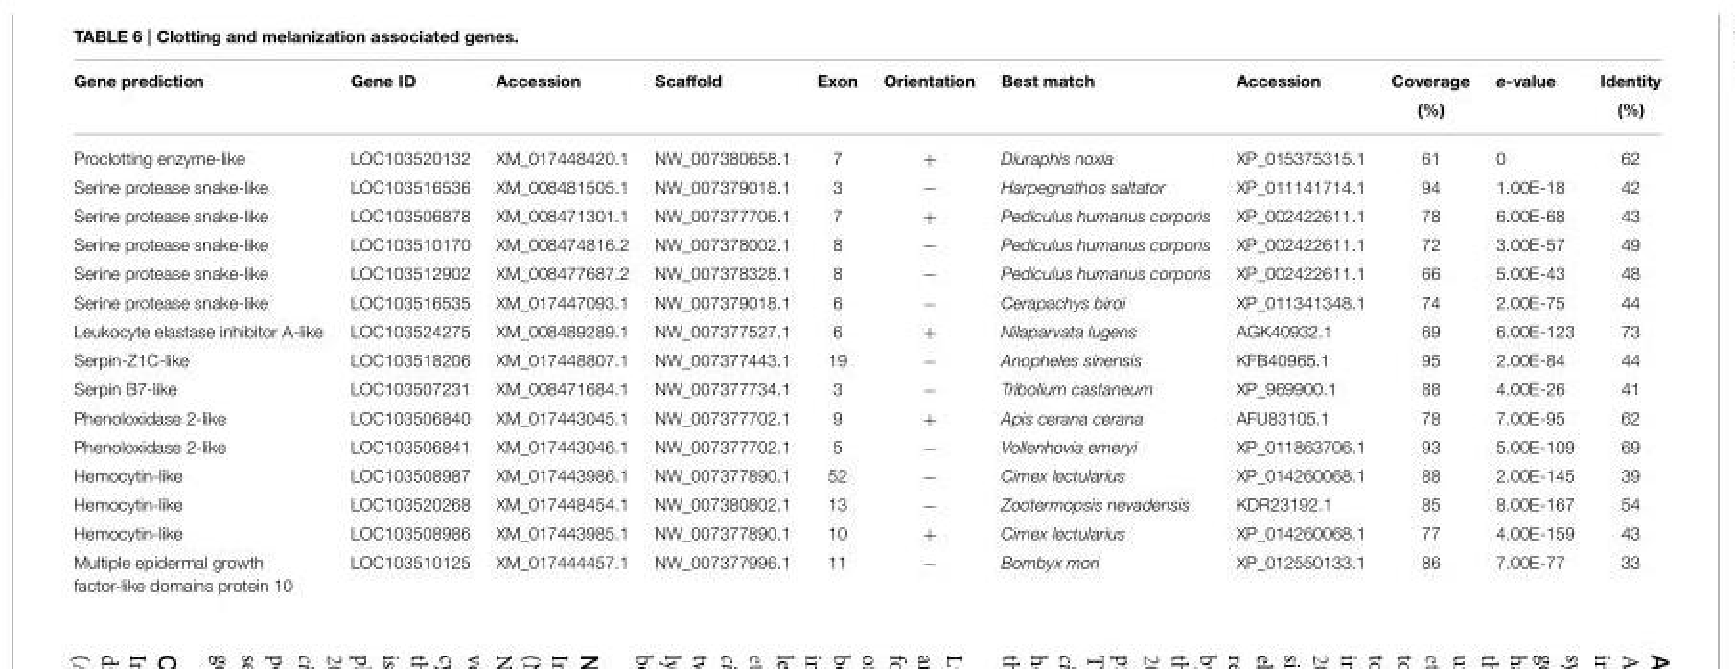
<table><thead><tr><td>Gene prediction</td><td>Gene ID</td><td>Accession</td><td>Scaffold</td><td>Exon</td><td>Orientation</td><td>Best match</td><td>Accession</td><td>Coverage (%)</td><td>e-value</td><td>Identity (%)</td></tr></thead><tbody><tr><td>Proclotting enzyme-like</td><td>LOC103520132</td><td>XM_017448420.1</td><td>NW_007380658.1</td><td>7</td><td>+</td><td>Diuraphis noxia</td><td>XP_015375315.1</td><td>61</td><td>0</td><td>62</td></tr><tr><td>Serine protease snake-like</td><td>LOC103516536</td><td>XM_008481505.1</td><td>NW_007379018.1</td><td>3</td><td>−</td><td>Harpegnathos saltator</td><td>XP_011141714.1</td><td>94</td><td>1.00E-18</td><td>42</td></tr><tr><td>Serine protease snake-like</td><td>LOC103506878</td><td>XM_008471301.1</td><td>NW_007377706.1</td><td>7</td><td>+</td><td>Pediculus humanus corporis</td><td>XP_002422611.1</td><td>78</td><td>6.00E-68</td><td>43</td></tr><tr><td>Serine protease snake-like</td><td>LOC103510170</td><td>XM_008474816.2</td><td>NW_007378002.1</td><td>8</td><td>−</td><td>Pediculus humanus corporis</td><td>XP_002422611.1</td><td>72</td><td>3.00E-57</td><td>49</td></tr><tr><td>Serine protease snake-like</td><td>LOC103512902</td><td>XM_008477687.2</td><td>NW_007378328.1</td><td>8</td><td>−</td><td>Pediculus humanus corporis</td><td>XP_002422611.1</td><td>66</td><td>5.00E-43</td><td>48</td></tr><tr><td>Serine protease snake-like</td><td>LOC103516535</td><td>XM_017447093.1</td><td>NW_007379018.1</td><td>6</td><td>−</td><td>Cerapachys biroi</td><td>XP_011341348.1</td><td>74</td><td>2.00E-75</td><td>44</td></tr><tr><td>Leukocyte elastase inhibitor A-like</td><td>LOC103524275</td><td>XM_008489289.1</td><td>NW_007377527.1</td><td>6</td><td>+</td><td>Nilaparvata lugens</td><td>AGK40932.1</td><td>69</td><td>6.00E-123</td><td>73</td></tr><tr><td>Serpin-Z1C-like</td><td>LOC103518206</td><td>XM_017448807.1</td><td>NW_007377443.1</td><td>19</td><td>−</td><td>Anopheles sinensis</td><td>KFB40965.1</td><td>95</td><td>2.00E-84</td><td>44</td></tr><tr><td>Serpin B7-like</td><td>LOC103507231</td><td>XM_008471684.1</td><td>NW_007377734.1</td><td>3</td><td>−</td><td>Tribolium castaneum</td><td>XP_969900.1</td><td>88</td><td>4.00E-26</td><td>41</td></tr><tr><td>Phenoloxidase 2-like</td><td>LOC103506840</td><td>XM_017443045.1</td><td>NW_007377702.1</td><td>9</td><td>+</td><td>Apis cerana cerana</td><td>AFU83105.1</td><td>78</td><td>7.00E-95</td><td>62</td></tr><tr><td>Phenoloxidase 2-like</td><td>LOC103506841</td><td>XM_017443046.1</td><td>NW_007377702.1</td><td>5</td><td>−</td><td>Vollenhovia emeryi</td><td>XP_011863706.1</td><td>93</td><td>5.00E-109</td><td>69</td></tr><tr><td>Hemocytin-like</td><td>LOC103508987</td><td>XM_017443986.1</td><td>NW_007377890.1</td><td>52</td><td>−</td><td>Cimex lectularius</td><td>XP_014260068.1</td><td>88</td><td>2.00E-145</td><td>39</td></tr><tr><td>Hemocytin-like</td><td>LOC103520268</td><td>XM_017448454.1</td><td>NW_007380802.1</td><td>13</td><td>−</td><td>Zootermopsis nevadensis</td><td>KDR23192.1</td><td>85</td><td>8.00E-167</td><td>54</td></tr><tr><td>Hemocytin-like</td><td>LOC103508986</td><td>XM_017443985.1</td><td>NW_007377890.1</td><td>10</td><td>+</td><td>Cimex lectularius</td><td>XP_014260068.1</td><td>77</td><td>4.00E-159</td><td>43</td></tr><tr><td>Multiple epidermal growth factor-like domains protein 10</td><td>LOC103510125</td><td>XM_017444457.1</td><td>NW_007377996.1</td><td>11</td><td>−</td><td>Bombyx mori</td><td>XP_012550133.1</td><td>86</td><td>7.00E-77</td><td>33</td></tr></tbody></table>